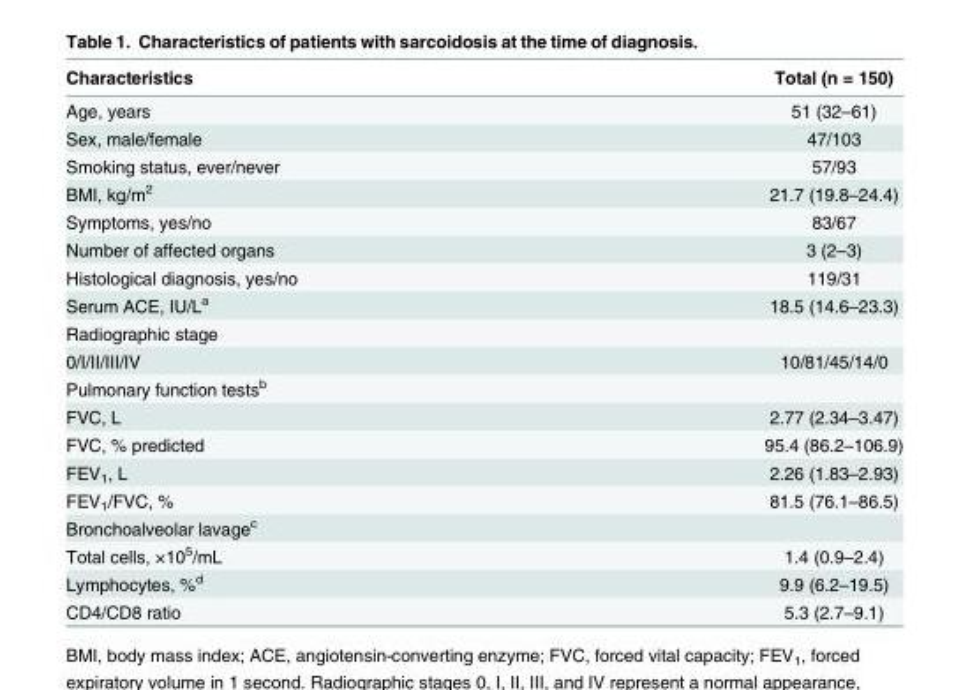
<table><thead><tr><td>Characteristics</td><td>Total (n = 150)</td></tr></thead><tbody><tr><td>Age, years</td><td>51 (32–61)</td></tr><tr><td>Sex, male/female</td><td>47/103</td></tr><tr><td>Smoking status, ever/never</td><td>57/93</td></tr><tr><td>BMI, kg/m<sup>2</sup></td><td>21.7 (19.8–24.4)</td></tr><tr><td>Symptoms, yes/no</td><td>83/67</td></tr><tr><td>Number of affected organs</td><td>3 (2–3)</td></tr><tr><td>Histological diagnosis, yes/no</td><td>119/31</td></tr><tr><td>Serum ACE, IU/L<sup>a</sup></td><td>18.5 (14.6–23.3)</td></tr><tr><td colspan="2">Radiographic stage</td></tr><tr><td>0/I/II/III/IV</td><td>10/81/45/14/0</td></tr><tr><td colspan="2">Pulmonary function tests<sup>b</sup></td></tr><tr><td>FVC, L</td><td>2.77 (2.34–3.47)</td></tr><tr><td>FVC, % predicted</td><td>95.4 (86.2–106.9)</td></tr><tr><td>FEV<sub>1</sub>, L</td><td>2.26 (1.83–2.93)</td></tr><tr><td>FEV<sub>1</sub>/FVC, %</td><td>81.5 (76.1–86.5)</td></tr><tr><td colspan="2">Bronchoalveolar lavage<sup>c</sup></td></tr><tr><td>Total cells, ×10<sup>5</sup>/mL</td><td>1.4 (0.9–2.4)</td></tr><tr><td>Lymphocytes, %<sup>d</sup></td><td>9.9 (6.2–19.5)</td></tr><tr><td>CD4/CD8 ratio</td><td>5.3 (2.7–9.1)</td></tr></tbody></table>